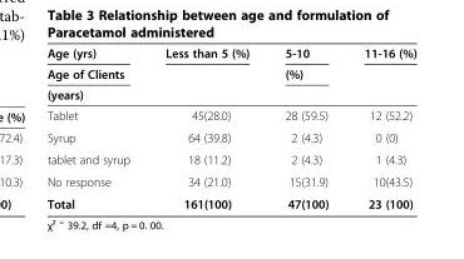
<table><thead><tr><td rowspan="3">Age (yrs) Age of Clients (years)</td><td rowspan="3">Less than 5 (%)</td><td rowspan="3">5-10 (%)</td><td rowspan="3">11-16 (%)</td></tr><tr></tr><tr></tr></thead><tbody><tr><td>Tablet</td><td>45(28.0)</td><td>28 (59.5)</td><td>12 (52.2)</td></tr><tr><td>Syrup</td><td>64 (39.8)</td><td>2 (4.3)</td><td>0 (0)</td></tr><tr><td>tablet and syrup</td><td>18 (11.2)</td><td>2 (4.3)</td><td>1 (4.3)</td></tr><tr><td>No response</td><td>34 (21.0)</td><td>15(31.9)</td><td>10(43.5)</td></tr><tr><td>Total</td><td>161(100)</td><td>47(100)</td><td>23 (100)</td></tr></tbody></table>